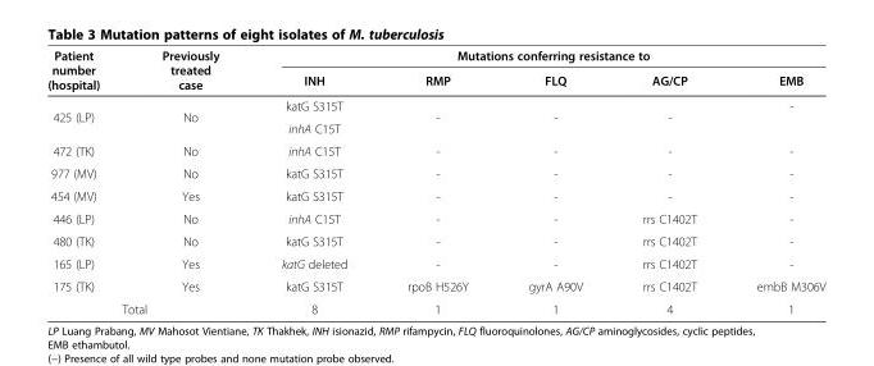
<table><thead><tr><td rowspan="2">Patient number (hospital)</td><td rowspan="2">Previously treated case</td><td colspan="5">Mutations conferring resistance to</td></tr><tr><td>INH</td><td>RMP</td><td>FLQ</td><td>AG/CP</td><td>EMB</td></tr></thead><tbody><tr><td rowspan="2">425 (LP)</td><td rowspan="2">No</td><td>katG S315T</td><td rowspan="2">-</td><td rowspan="2">-</td><td rowspan="2">-</td><td rowspan="2">-</td></tr><tr><td>inhA C15T</td></tr><tr><td>472 (TK)</td><td>No</td><td>inhA C15T</td><td>-</td><td>-</td><td>-</td><td>-</td></tr><tr><td>977 (MV)</td><td>No</td><td>katG S315T</td><td>-</td><td>-</td><td>-</td><td>-</td></tr><tr><td>454 (MV)</td><td>Yes</td><td>katG S315T</td><td>-</td><td>-</td><td>-</td><td>-</td></tr><tr><td>446 (LP)</td><td>No</td><td>inhA C15T</td><td>-</td><td>-</td><td>rrs C1402T</td><td>-</td></tr><tr><td>480 (TK)</td><td>No</td><td>katG S315T</td><td>-</td><td>-</td><td>rrs C1402T</td><td>-</td></tr><tr><td>165 (LP)</td><td>Yes</td><td>katG deleted</td><td>-</td><td>-</td><td>rrs C1402T</td><td>-</td></tr><tr><td>175 (TK)</td><td>Yes</td><td>katG S315T</td><td>rpoB H526Y</td><td>gyrA A90V</td><td>rrs C1402T</td><td>embB M306V</td></tr><tr><td colspan="2">Total</td><td>8</td><td>1</td><td>1</td><td>4</td><td>1</td></tr></tbody></table>